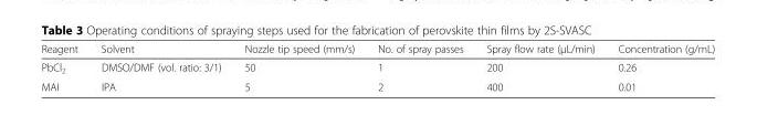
<table><thead><tr><td>Reagent</td><td>Solvent</td><td>Nozzle tip speed (mm/s)</td><td>No. of spray passes</td><td>Spray flow rate (μL/min)</td><td>Concentration (g/mL)</td></tr></thead><tbody><tr><td>PbCl<sub>2</sub></td><td>DMSO/DMF (vol. ratio: 3/1)</td><td>50</td><td>1</td><td>200</td><td>0.26</td></tr><tr><td>MAI</td><td>IPA</td><td>5</td><td>2</td><td>400</td><td>0.01</td></tr></tbody></table>